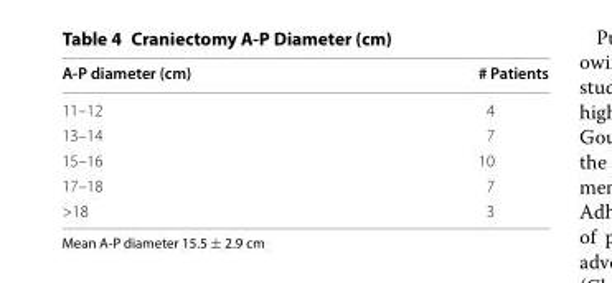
<table><thead><tr><td>A-P diameter (cm)</td><td># Patients</td></tr></thead><tbody><tr><td>11–12</td><td>4</td></tr><tr><td>13–14</td><td>7</td></tr><tr><td>15–16</td><td>10</td></tr><tr><td>17–18</td><td>7</td></tr><tr><td>&gt;18</td><td>3</td></tr></tbody></table>